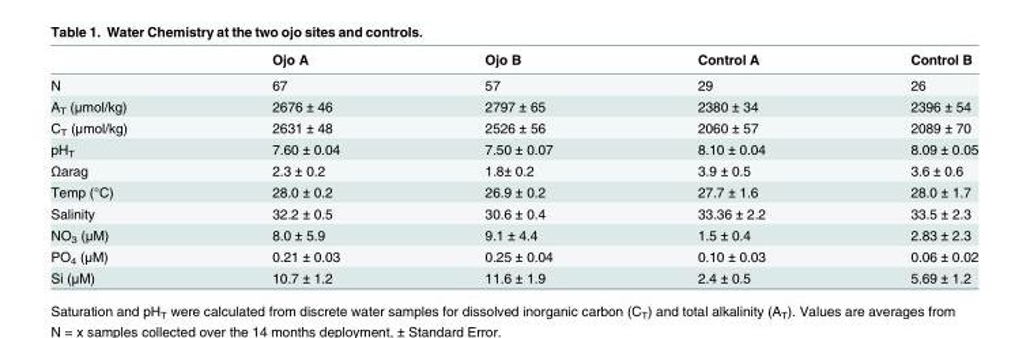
<table><thead><tr><td></td><td>Ojo A</td><td>Ojo B</td><td>Control A</td><td>Control B</td></tr></thead><tbody><tr><td>N</td><td>67</td><td>57</td><td>29</td><td>26</td></tr><tr><td>A<sub>T</sub> (μmol/kg)</td><td>2676 ± 46</td><td>2797 ± 65</td><td>2380 ± 34</td><td>2396 ± 54</td></tr><tr><td>C<sub>T</sub> (μmol/kg)</td><td>2631 ± 48</td><td>2526 ± 56</td><td>2060 ± 57</td><td>2089 ± 70</td></tr><tr><td>pH<sub>T</sub></td><td>7.60 ± 0.04</td><td>7.50 ± 0.07</td><td>8.10 ± 0.04</td><td>8.09 ± 0.05</td></tr><tr><td>Ωarag</td><td>2.3 ± 0.2</td><td>1.8± 0.2</td><td>3.9 ± 0.5</td><td>3.6 ± 0.6</td></tr><tr><td>Temp (°C)</td><td>28.0 ± 0.2</td><td>26.9 ± 0.2</td><td>27.7 ± 1.6</td><td>28.0 ± 1.7</td></tr><tr><td>Salinity</td><td>32.2 ± 0.5</td><td>30.6 ± 0.4</td><td>33.36 ± 2.2</td><td>33.5 ± 2.3</td></tr><tr><td>NO<sub>3</sub> (μM)</td><td>8.0 ± 5.9</td><td>9.1 ± 4.4</td><td>1.5 ± 0.4</td><td>2.83 ± 2.3</td></tr><tr><td>PO<sub>4</sub> (μM)</td><td>0.21 ± 0.03</td><td>0.25 ± 0.04</td><td>0.10 ± 0.03</td><td>0.06 ± 0.02</td></tr><tr><td>Si (μM)</td><td>10.7 ± 1.2</td><td>11.6 ± 1.9</td><td>2.4 ± 0.5</td><td>5.69 ± 1.2</td></tr></tbody></table>